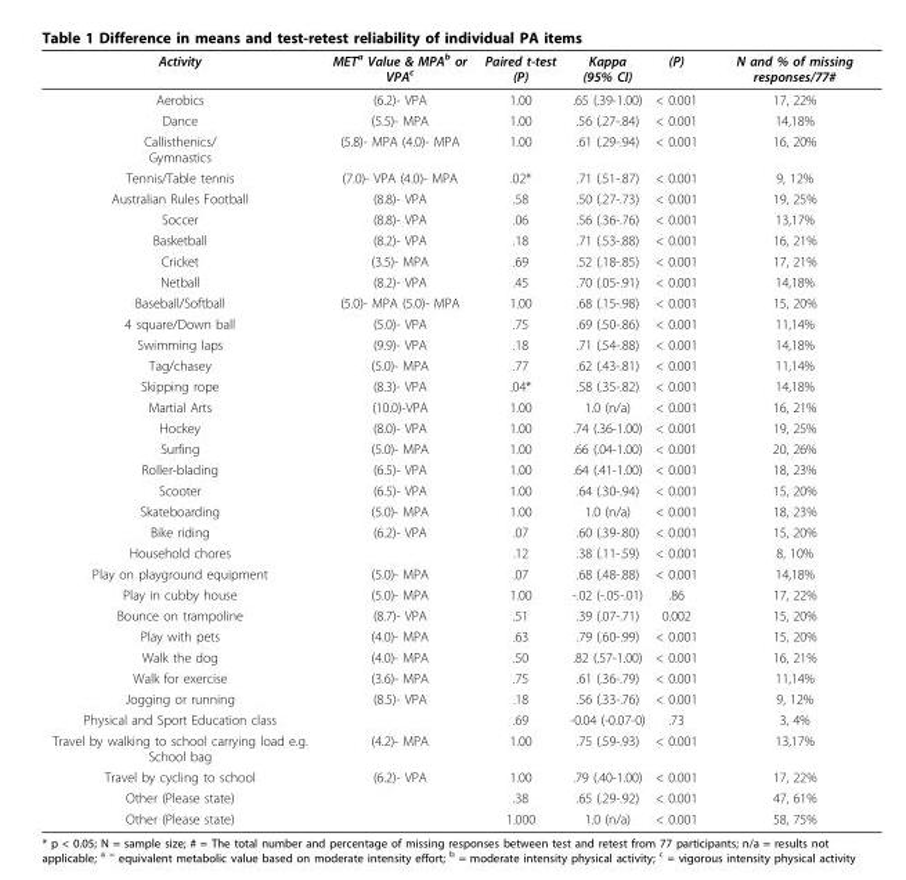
<table><thead><tr><td>Activity</td><td>MET<sup>a</sup> Value &amp; MPA<sup>b</sup> or VPA<sup>c</sup></td><td>Paired t-test (P)</td><td>Kappa (95% CI)</td><td>(P)</td><td>N and % of missing responses/77#</td></tr></thead><tbody><tr><td>Aerobics</td><td>(6.2)- VPA</td><td>1.00</td><td>.65 (.39-1.00)</td><td>&lt; 0.001</td><td>17, 22%</td></tr><tr><td>Dance</td><td>(5.5)- MPA</td><td>1.00</td><td>.56 (.27-.84)</td><td>&lt; 0.001</td><td>14,18%</td></tr><tr><td>Callisthenics/ Gymnastics</td><td>(5.8)- MPA (4.0)- MPA</td><td>1.00</td><td>.61 (.29-.94)</td><td>&lt; 0.001</td><td>16, 20%</td></tr><tr><td>Tennis/Table tennis</td><td>(7.0)- VPA (4.0)- MPA</td><td>.02*</td><td>.71 (.51-.87)</td><td>&lt; 0.001</td><td>9, 12%</td></tr><tr><td>Australian Rules Football</td><td>(8.8)- VPA</td><td>.58</td><td>.50 (.27-.73)</td><td>&lt; 0.001</td><td>19, 25%</td></tr><tr><td>Soccer</td><td>(8.8)- VPA</td><td>.06</td><td>.56 (.36-.76)</td><td>&lt; 0.001</td><td>13,17%</td></tr><tr><td>Basketball</td><td>(8.2)- VPA</td><td>.18</td><td>.71 (.53-.88)</td><td>&lt; 0.001</td><td>16, 21%</td></tr><tr><td>Cricket</td><td>(3.5)- MPA</td><td>.69</td><td>.52 (.18-.85)</td><td>&lt; 0.001</td><td>17, 21%</td></tr><tr><td>Netball</td><td>(8.2)- VPA</td><td>.45</td><td>.70 (.05-.91)</td><td>&lt; 0.001</td><td>14,18%</td></tr><tr><td>Baseball/Softball</td><td>(5.0)- MPA (5.0)- MPA</td><td>1.00</td><td>.68 (.15-.98)</td><td>&lt; 0.001</td><td>15, 20%</td></tr><tr><td>4 square/Down ball</td><td>(5.0)- VPA</td><td>.75</td><td>.69 (.50-.86)</td><td>&lt; 0.001</td><td>11,14%</td></tr><tr><td>Swimming laps</td><td>(9.9)- VPA</td><td>.18</td><td>.71 (.54-.88)</td><td>&lt; 0.001</td><td>14,18%</td></tr><tr><td>Tag/chasey</td><td>(5.0)- MPA</td><td>.77</td><td>.62 (.43-.81)</td><td>&lt; 0.001</td><td>11,14%</td></tr><tr><td>Skipping rope</td><td>(8.3)- VPA</td><td>.04*</td><td>.58 (.35-.82)</td><td>&lt; 0.001</td><td>14,18%</td></tr><tr><td>Martial Arts</td><td>(10.0)-VPA</td><td>1.00</td><td>1.0 (n/a)</td><td>&lt; 0.001</td><td>16, 21%</td></tr><tr><td>Hockey</td><td>(8.0)- VPA</td><td>1.00</td><td>.74 (.36-1.00)</td><td>&lt; 0.001</td><td>19, 25%</td></tr><tr><td>Surfing</td><td>(5.0)- MPA</td><td>1.00</td><td>.66 (.04-1.00)</td><td>&lt; 0.001</td><td>20, 26%</td></tr><tr><td>Roller-blading</td><td>(6.5)- VPA</td><td>1.00</td><td>.64 (.41-1.00)</td><td>&lt; 0.001</td><td>18, 23%</td></tr><tr><td>Scooter</td><td>(6.5)- VPA</td><td>1.00</td><td>.64 (.30-.94)</td><td>&lt; 0.001</td><td>15, 20%</td></tr><tr><td>Skateboarding</td><td>(5.0)- MPA</td><td>1.00</td><td>1.0 (n/a)</td><td>&lt; 0.001</td><td>18, 23%</td></tr><tr><td>Bike riding</td><td>(6.2)- VPA</td><td>.07</td><td>.60 (.39-.80)</td><td>&lt; 0.001</td><td>15, 20%</td></tr><tr><td>Household chores</td><td></td><td>.12</td><td>.38 (.11-.59)</td><td>&lt; 0.001</td><td>8, 10%</td></tr><tr><td>Play on playground equipment</td><td>(5.0)- MPA</td><td>.07</td><td>.68 (.48-.88)</td><td>&lt; 0.001</td><td>14,18%</td></tr><tr><td>Play in cubby house</td><td>(5.0)- MPA</td><td>1.00</td><td>-.02 (-.05-.01)</td><td>.86</td><td>17, 22%</td></tr><tr><td>Bounce on trampoline</td><td>(8.7)- VPA</td><td>.51</td><td>.39 (.07-.71)</td><td>0.002</td><td>15, 20%</td></tr><tr><td>Play with pets</td><td>(4.0)- MPA</td><td>.63</td><td>.79 (.60-.99)</td><td>&lt; 0.001</td><td>15, 20%</td></tr><tr><td>Walk the dog</td><td>(4.0)- MPA</td><td>.50</td><td>.82 (.57-1.00)</td><td>&lt; 0.001</td><td>16, 21%</td></tr><tr><td>Walk for exercise</td><td>(3.6)- MPA</td><td>.75</td><td>.61 (.36-.79)</td><td>&lt; 0.001</td><td>11,14%</td></tr><tr><td>Jogging or running</td><td>(8.5)- VPA</td><td>.18</td><td>.56 (.33-.76)</td><td>&lt; 0.001</td><td>9, 12%</td></tr><tr><td>Physical and Sport Education class</td><td></td><td>.69</td><td>-0.04 (-0.07-0)</td><td>.73</td><td>3, 4%</td></tr><tr><td>Travel by walking to school carrying load e.g. School bag</td><td>(4.2)- MPA</td><td>1.00</td><td>.75 (.59-.93)</td><td>&lt; 0.001</td><td>13,17%</td></tr><tr><td>Travel by cycling to school</td><td>(6.2)- VPA</td><td>1.00</td><td>.79 (.40-1.00)</td><td>&lt; 0.001</td><td>17, 22%</td></tr><tr><td>Other (Please state)</td><td></td><td>.38</td><td>.65 (.29-.92)</td><td>&lt; 0.001</td><td>47, 61%</td></tr><tr><td>Other (Please state)</td><td></td><td>1.000</td><td>1.0 (n/a)</td><td>&lt; 0.001</td><td>58, 75%</td></tr></tbody></table>